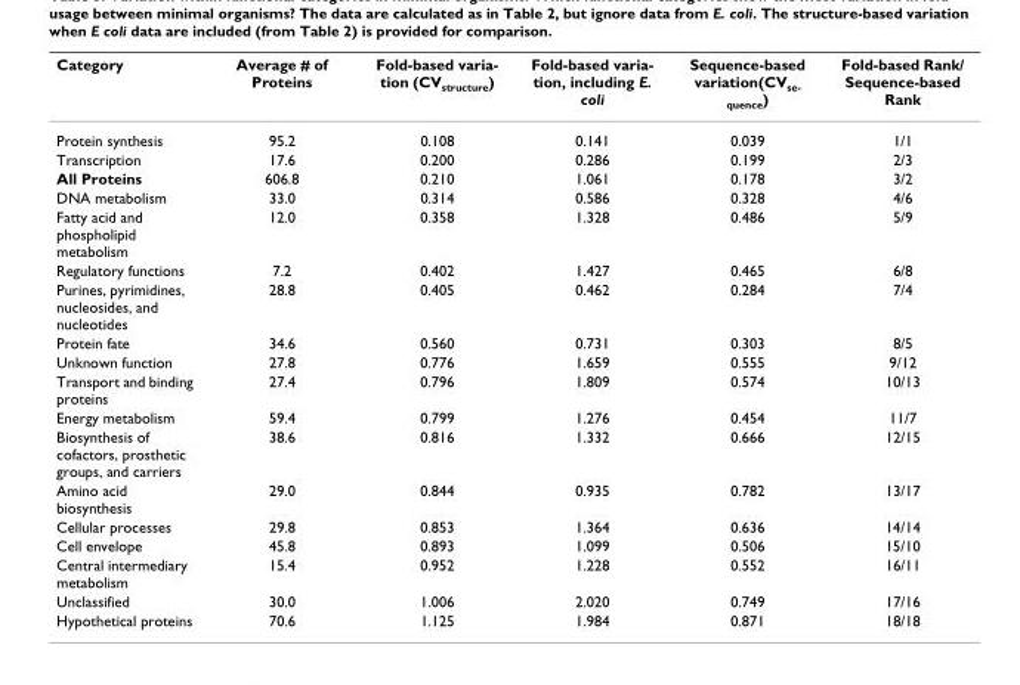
<table><thead><tr><td>Category</td><td>Average # of Proteins</td><td>Fold-based varia- tion (CVstructure)</td><td>Fold-based varia- tion, including E. coli</td><td>Sequence-based variation(CVse- quence)</td><td>Fold-based Rank/ Sequence-based Rank</td></tr></thead><tbody><tr><td>Protein synthesis</td><td>95.2</td><td>0.108</td><td>0.141</td><td>0.039</td><td>1/1</td></tr><tr><td>Transcription</td><td>17.6</td><td>0.200</td><td>0.286</td><td>0.199</td><td>2/3</td></tr><tr><td>All Proteins</td><td>606.8</td><td>0.210</td><td>1.061</td><td>0.178</td><td>3/2</td></tr><tr><td>DNA metabolism</td><td>33.0</td><td>0.314</td><td>0.586</td><td>0.328</td><td>4/6</td></tr><tr><td>Fatty acid and phospholipid metabolism</td><td>12.0</td><td>0.358</td><td>1.328</td><td>0.486</td><td>5/9</td></tr><tr><td>Regulatory functions</td><td>7.2</td><td>0.402</td><td>1.427</td><td>0.465</td><td>6/8</td></tr><tr><td>Purines, pyrimidines, nucleosides, and nucleotides</td><td>28.8</td><td>0.405</td><td>0.462</td><td>0.284</td><td>7/4</td></tr><tr><td>Protein fate</td><td>34.6</td><td>0.560</td><td>0.731</td><td>0.303</td><td>8/5</td></tr><tr><td>Unknown function</td><td>27.8</td><td>0.776</td><td>1.659</td><td>0.555</td><td>9/12</td></tr><tr><td>Transport and binding proteins</td><td>27.4</td><td>0.796</td><td>1.809</td><td>0.574</td><td>10/13</td></tr><tr><td>Energy metabolism</td><td>59.4</td><td>0.799</td><td>1.276</td><td>0.454</td><td>11/7</td></tr><tr><td>Biosynthesis of cofactors, prosthetic groups, and carriers</td><td>38.6</td><td>0.816</td><td>1.332</td><td>0.666</td><td>12/15</td></tr><tr><td>Amino acid biosynthesis</td><td>29.0</td><td>0.844</td><td>0.935</td><td>0.782</td><td>13/17</td></tr><tr><td>Cellular processes</td><td>29.8</td><td>0.853</td><td>1.364</td><td>0.636</td><td>14/14</td></tr><tr><td>Cell envelope</td><td>45.8</td><td>0.893</td><td>1.099</td><td>0.506</td><td>15/10</td></tr><tr><td>Central intermediary metabolism</td><td>15.4</td><td>0.952</td><td>1.228</td><td>0.552</td><td>16/11</td></tr><tr><td>Unclassified</td><td>30.0</td><td>1.006</td><td>2.020</td><td>0.749</td><td>17/16</td></tr><tr><td>Hypothetical proteins</td><td>70.6</td><td>1.125</td><td>1.984</td><td>0.871</td><td>18/18</td></tr></tbody></table>